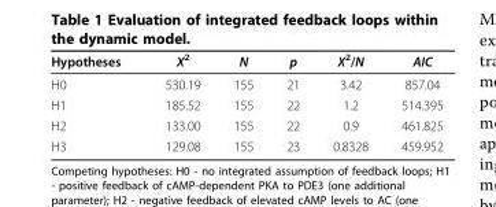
<table><thead><tr><td>Hypotheses</td><td>Χ<sup>2</sup></td><td>N</td><td>p</td><td>Χ<sup>2</sup>/N</td><td>AIC</td></tr></thead><tbody><tr><td>H0</td><td>530.19</td><td>155</td><td>21</td><td>3.42</td><td>857.04</td></tr><tr><td>H1</td><td>185.52</td><td>155</td><td>22</td><td>1.2</td><td>514.395</td></tr><tr><td>H2</td><td>133.00</td><td>155</td><td>22</td><td>0.9</td><td>461.825</td></tr><tr><td>H3</td><td>129.08</td><td>155</td><td>23</td><td>0.8328</td><td>459.952</td></tr></tbody></table>